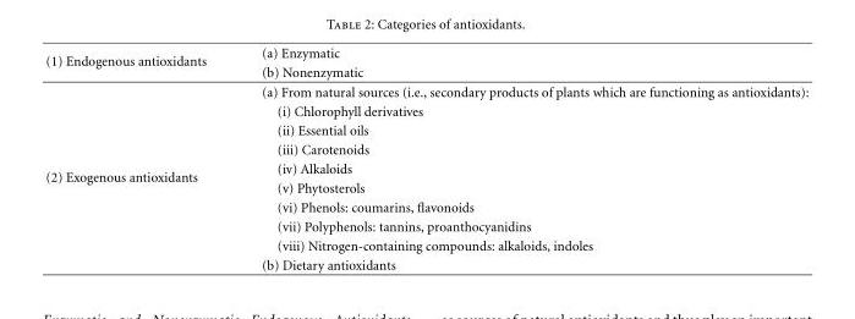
<table><tbody><tr><td rowspan="2">(1) Endogenous antioxidants</td><td>(a) Enzymatic</td></tr><tr><td>(b) Nonenzymatic</td></tr><tr><td rowspan="10">(2) Exogenous antioxidants</td><td>(a) From natural sources (i.e., secondary products of plants which are functioning as antioxidants):</td></tr><tr><td>(i) Chlorophyll derivatives</td></tr><tr><td>(ii) Essential oils</td></tr><tr><td>(iii) Carotenoids</td></tr><tr><td>(iv) Alkaloids</td></tr><tr><td>(v) Phytosterols</td></tr><tr><td>(vi) Phenols: coumarins, flavonoids</td></tr><tr><td>(vii) Polyphenols: tannins, proanthocyanidins</td></tr><tr><td>(viii) Nitrogen-containing compounds: alkaloids, indoles</td></tr><tr><td>(b) Dietary antioxidants</td></tr></tbody></table>